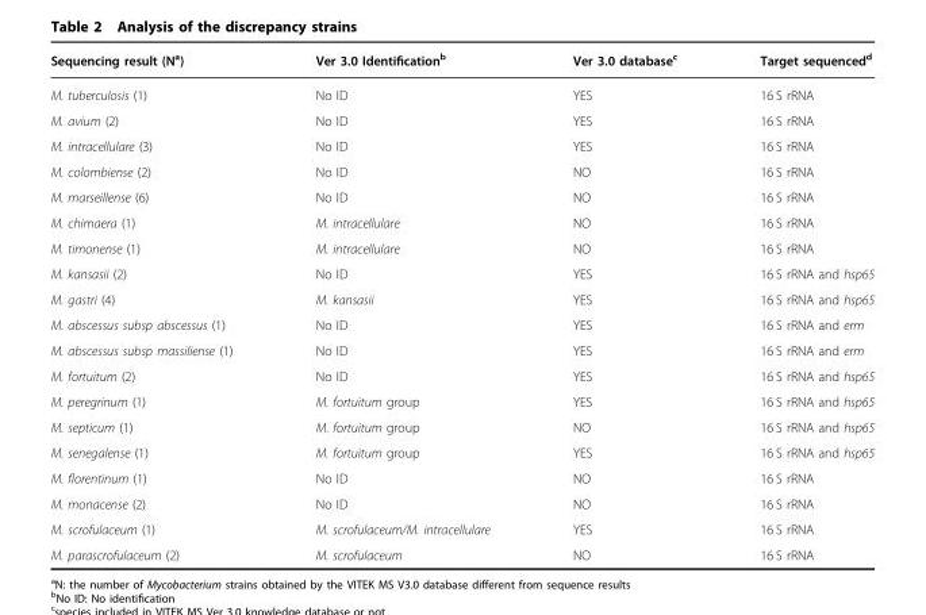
<table><thead><tr><td>Sequencing result (N<sup>a</sup>)</td><td>Ver 3.0 Identification<sup>b</sup></td><td>Ver 3.0 database<sup>c</sup></td><td>Target sequenced<sup>d</sup></td></tr></thead><tbody><tr><td>M. tuberculosis (1)</td><td>No ID</td><td>YES</td><td>16 S rRNA</td></tr><tr><td>M. avium (2)</td><td>No ID</td><td>YES</td><td>16 S rRNA</td></tr><tr><td>M. intracellulare (3)</td><td>No ID</td><td>YES</td><td>16 S rRNA</td></tr><tr><td>M. colombiense (2)</td><td>No ID</td><td>NO</td><td>16 S rRNA</td></tr><tr><td>M. marseillense (6)</td><td>No ID</td><td>NO</td><td>16 S rRNA</td></tr><tr><td>M. chimaera (1)</td><td>M. intracellulare</td><td>NO</td><td>16 S rRNA</td></tr><tr><td>M. timonense (1)</td><td>M. intracellulare</td><td>NO</td><td>16 S rRNA</td></tr><tr><td>M. kansasii (2)</td><td>No ID</td><td>YES</td><td>16 S rRNA and hsp65</td></tr><tr><td>M. gastri (4)</td><td>M. kansasii</td><td>YES</td><td>16 S rRNA and hsp65</td></tr><tr><td>M. abscessus subsp abscessus (1)</td><td>No ID</td><td>YES</td><td>16 S rRNA and erm</td></tr><tr><td>M. abscessus subsp massiliense (1)</td><td>No ID</td><td>YES</td><td>16 S rRNA and erm</td></tr><tr><td>M. fortuitum (2)</td><td>No ID</td><td>YES</td><td>16 S rRNA and hsp65</td></tr><tr><td>M. peregrinum (1)</td><td>M. fortuitum group</td><td>YES</td><td>16 S rRNA and hsp65</td></tr><tr><td>M. septicum (1)</td><td>M. fortuitum group</td><td>NO</td><td>16 S rRNA and hsp65</td></tr><tr><td>M. senegalense (1)</td><td>M. fortuitum group</td><td>YES</td><td>16 S rRNA and hsp65</td></tr><tr><td>M. florentinum (1)</td><td>No ID</td><td>NO</td><td>16 S rRNA</td></tr><tr><td>M. monacense (2)</td><td>No ID</td><td>NO</td><td>16 S rRNA</td></tr><tr><td>M. scrofulaceum (1)</td><td>M. scrofulaceum/M. intracellulare</td><td>YES</td><td>16 S rRNA</td></tr><tr><td>M. parascrofulaceum (2)</td><td>M. scrofulaceum</td><td>NO</td><td>16 S rRNA</td></tr></tbody></table>